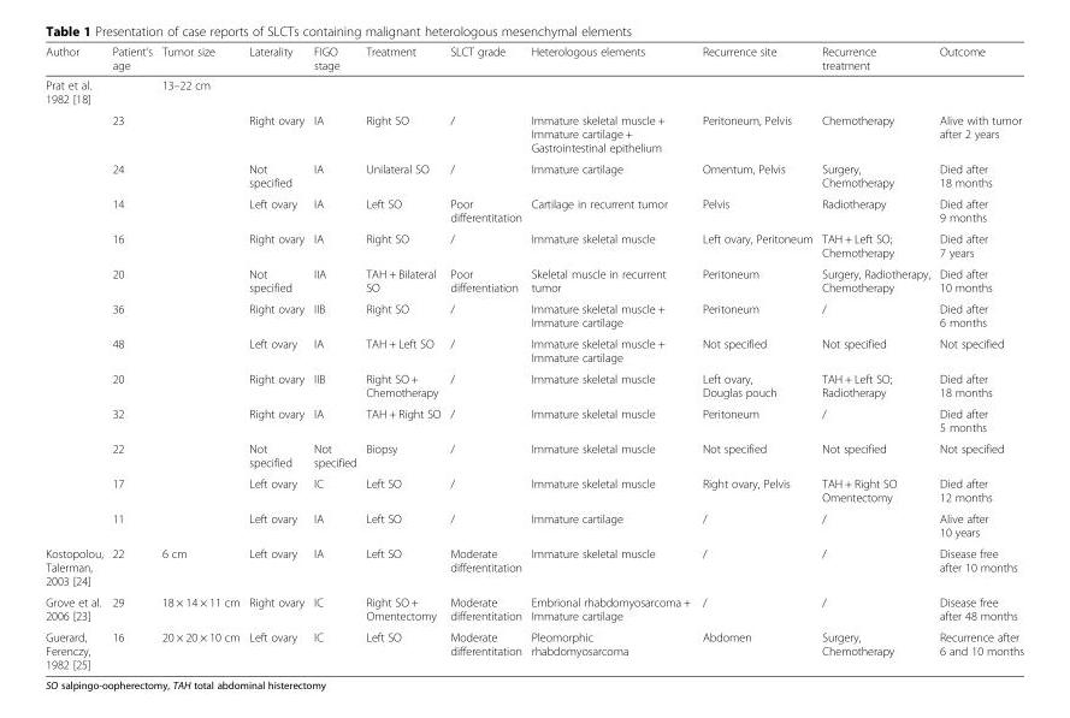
<table><thead><tr><td>Author</td><td>Patient’s age</td><td>Tumor size</td><td>Laterality</td><td>FIGO stage</td><td>Treatment</td><td>SLCT grade</td><td>Heterologous elements</td><td>Recurrence site</td><td>Recurrence treatment</td><td>Outcome</td></tr></thead><tbody><tr><td rowspan="13">Prat et al. 1982 [18]</td><td></td><td>13–22 cm</td><td></td><td></td><td></td><td></td><td></td><td></td><td></td><td></td></tr><tr><td>23</td><td></td><td>Right ovary</td><td>IA</td><td>Right SO</td><td>/</td><td>Immature skeletal muscle + Immature cartilage + Gastrointestinal epithelium</td><td>Peritoneum, Pelvis</td><td>Chemotherapy</td><td>Alive with tumor after 2 years</td></tr><tr><td>24</td><td></td><td>Not specified</td><td>IA</td><td>Unilateral SO</td><td>/</td><td>Immature cartilage</td><td>Omentum, Pelvis</td><td>Surgery, Chemotherapy</td><td>Died after 18 months</td></tr><tr><td>14</td><td></td><td>Left ovary</td><td>IA</td><td>Left SO</td><td>Poor differentitation</td><td>Cartilage in recurrent tumor</td><td>Pelvis</td><td>Radiotherapy</td><td>Died after 9 months</td></tr><tr><td>16</td><td></td><td>Right ovary</td><td>IA</td><td>Right SO</td><td>/</td><td>Immature skeletal muscle</td><td>Left ovary, Peritoneum</td><td>TAH + Left SO; Chemotherapy</td><td>Died after 7 years</td></tr><tr><td>20</td><td></td><td>Not specified</td><td>IIA</td><td>TAH + Bilateral SO</td><td>Poor differentiation</td><td>Skeletal muscle in recurrent tumor</td><td>Peritoneum</td><td>Surgery, Radiotherapy, Chemotherapy</td><td>Died after 10 months</td></tr><tr><td>36</td><td></td><td>Right ovary</td><td>IIB</td><td>Right SO</td><td>/</td><td>Immature skeletal muscle + Immature cartilage</td><td>Peritoneum</td><td>/</td><td>Died after 6 months</td></tr><tr><td>48</td><td></td><td>Left ovary</td><td>IA</td><td>TAH + Left SO</td><td>/</td><td>Immature skeletal muscle + Immature cartilage</td><td>Not specified</td><td>Not specified</td><td>Not specified</td></tr><tr><td>20</td><td></td><td>Right ovary</td><td>IIB</td><td>Right SO + Chemotherapy</td><td>/</td><td>Immature skeletal muscle</td><td>Left ovary, Douglas pouch</td><td>TAH + Left SO; Radiotherapy</td><td>Died after 18 months</td></tr><tr><td>32</td><td></td><td>Right ovary</td><td>IA</td><td>TAH + Right SO</td><td>/</td><td>Immature skeletal muscle</td><td>Peritoneum</td><td>/</td><td>Died after 5 months</td></tr><tr><td>22</td><td></td><td>Not specified</td><td>Not specified</td><td>Biopsy</td><td>/</td><td>Immature skeletal muscle</td><td>Not specified</td><td>Not specified</td><td>Not specified</td></tr><tr><td>17</td><td></td><td>Left ovary</td><td>IC</td><td>Left SO</td><td>/</td><td>Immature skeletal muscle</td><td>Right ovary, Pelvis</td><td>TAH + Right SO Omentectomy</td><td>Died after 12 months</td></tr><tr><td>11</td><td></td><td>Left ovary</td><td>IA</td><td>Left SO</td><td>/</td><td>Immature cartilage</td><td>/</td><td>/</td><td>Alive after 10 years</td></tr><tr><td>Kostopolou, Talerman, 2003 [24]</td><td>22</td><td>6 cm</td><td>Left ovary</td><td>IA</td><td>Left SO</td><td>Moderate differentitation</td><td>Immature skeletal muscle</td><td>/</td><td>/</td><td>Disease free after 10 months</td></tr><tr><td>Grove et al. 2006 [23]</td><td>29</td><td>18 × 14 × 11 cm</td><td>Right ovary</td><td>IC</td><td>Right SO + Omentectomy</td><td>Moderate differentitation</td><td>Embrional rhabdomyosarcoma + Immature cartilage</td><td>/</td><td>/</td><td>Disease free after 48 months</td></tr><tr><td>Guerard, Ferenczy, 1982 [25]</td><td>16</td><td>20 × 20 × 10 cm</td><td>Left ovary</td><td>IC</td><td>Left SO</td><td>Moderate differentitation</td><td>Pleomorphic rhabdomyosarcoma</td><td>Abdomen</td><td>Surgery, Chemotherapy</td><td>Recurrence after 6 and 10 months</td></tr></tbody></table>